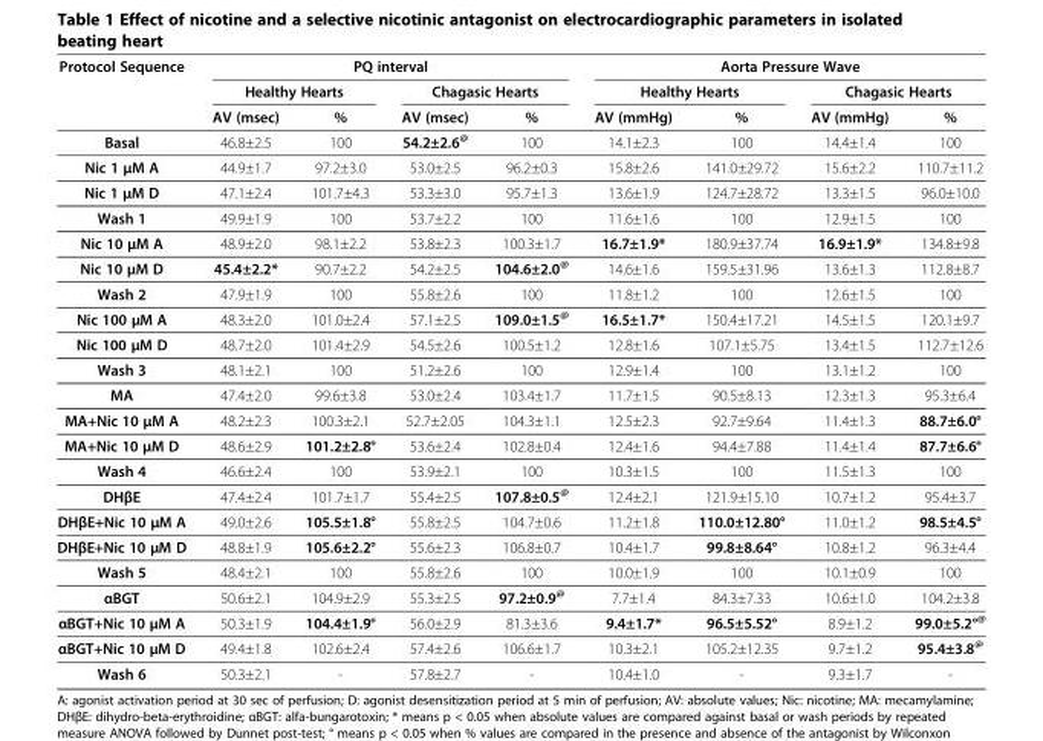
<table><thead><tr><td rowspan="3">Protocol Sequence</td><td colspan="4">PQ interval</td><td colspan="4">Aorta Pressure Wave</td></tr><tr><td colspan="2">Healthy Hearts</td><td colspan="2">Chagasic Hearts</td><td colspan="2">Healthy Hearts</td><td colspan="2">Chagasic Hearts</td></tr><tr><td>AV (msec)</td><td>%</td><td>AV (msec)</td><td>%</td><td>AV (mmHg)</td><td>%</td><td>AV (mmHg)</td><td>%</td></tr></thead><tbody><tr><td>Basal</td><td>46.8±2.5</td><td>100</td><td>54.2±2.6<sup>@</sup></td><td>100</td><td>14.1±2.3</td><td>100</td><td>14.4±1.4</td><td>100</td></tr><tr><td>Nic 1 μM A</td><td>44.9±1.7</td><td>97.2±3.0</td><td>53.0±2.5</td><td>96.2±0.3</td><td>15.8±2.6</td><td>141.0±29.72</td><td>15.6±2.2</td><td>110.7±11.2</td></tr><tr><td>Nic 1 μM D</td><td>47.1±2.4</td><td>101.7±4.3</td><td>53.3±3.0</td><td>95.7±1.3</td><td>13.6±1.9</td><td>124.7±28.72</td><td>13.3±1.5</td><td>96.0±10.0</td></tr><tr><td>Wash 1</td><td>49.9±1.9</td><td>100</td><td>53.7±2.2</td><td>100</td><td>11.6±1.6</td><td>100</td><td>12.9±1.5</td><td>100</td></tr><tr><td>Nic 10 μM A</td><td>48.9±2.0</td><td>98.1±2.2</td><td>53.8±2.3</td><td>100.3±1.7</td><td>16.7±1.9*</td><td>180.9±37.74</td><td>16.9±1.9*</td><td>134.8±9.8</td></tr><tr><td>Nic 10 μM D</td><td>45.4±2.2*</td><td>90.7±2.2</td><td>54.2±2.5</td><td>104.6±2.0<sup>@</sup></td><td>14.6±1.6</td><td>159.5±31.96</td><td>13.6±1.3</td><td>112.8±8.7</td></tr><tr><td>Wash 2</td><td>47.9±1.9</td><td>100</td><td>55.8±2.6</td><td>100</td><td>11.8±1.2</td><td>100</td><td>12.6±1.5</td><td>100</td></tr><tr><td>Nic 100 μM A</td><td>48.3±2.0</td><td>101.0±2.4</td><td>57.1±2.5</td><td>109.0±1.5<sup>@</sup></td><td>16.5±1.7*</td><td>150.4±17.21</td><td>14.5±1.5</td><td>120.1±9.7</td></tr><tr><td>Nic 100 μM D</td><td>48.7±2.0</td><td>101.4±2.9</td><td>54.5±2.6</td><td>100.5±1.2</td><td>12.8±1.6</td><td>107.1±5.75</td><td>13.4±1.5</td><td>112.7±12.6</td></tr><tr><td>Wash 3</td><td>48.1±2.1</td><td>100</td><td>51.2±2.6</td><td>100</td><td>12.9±1.4</td><td>100</td><td>13.1±1.2</td><td>100</td></tr><tr><td>MA</td><td>47.4±2.0</td><td>99.6±3.8</td><td>53.0±2.4</td><td>103.4±1.7</td><td>11.7±1.5</td><td>90.5±8.13</td><td>12.3±1.3</td><td>95.3±6.4</td></tr><tr><td>MA+Nic 10 μM A</td><td>48.2±2.3</td><td>100.3±2.1</td><td>52.7±2.05</td><td>104.3±1.1</td><td>12.5±2.3</td><td>92.7±9.64</td><td>11.4±1.3</td><td>88.7±6.0°</td></tr><tr><td>MA+Nic 10 μM D</td><td>48.6±2.9</td><td>101.2±2.8°</td><td>53.6±2.4</td><td>102.8±0.4</td><td>12.4±1.6</td><td>94.4±7.88</td><td>11.4±1.4</td><td>87.7±6.6°</td></tr><tr><td>Wash 4</td><td>46.6±2.4</td><td>100</td><td>53.9±2.1</td><td>100</td><td>10.3±1.5</td><td>100</td><td>11.5±1.3</td><td>100</td></tr><tr><td>DHβE</td><td>47.4±2.4</td><td>101.7±1.7</td><td>55.4±2.5</td><td>107.8±0.5<sup>@</sup></td><td>12.4±2.1</td><td>121.9±15.10</td><td>10.7±1.2</td><td>95.4±3.7</td></tr><tr><td>DHβE+Nic 10 μM A</td><td>49.0±2.6</td><td>105.5±1.8°</td><td>55.8±2.5</td><td>104.7±0.6</td><td>11.2±1.8</td><td>110.0±12.80°</td><td>11.0±1.2</td><td>98.5±4.5°</td></tr><tr><td>DHβE+Nic 10 μM D</td><td>48.8±1.9</td><td>105.6±2.2°</td><td>55.6±2.3</td><td>106.8±0.7</td><td>10.4±1.7</td><td>99.8±8.64°</td><td>10.8±1.2</td><td>96.3±4.4</td></tr><tr><td>Wash 5</td><td>48.4±2.1</td><td>100</td><td>55.8±2.6</td><td>100</td><td>10.0±1.9</td><td>100</td><td>10.1±0.9</td><td>100</td></tr><tr><td>αBGT</td><td>50.6±2.1</td><td>104.9±2.9</td><td>55.3±2.5</td><td>97.2±0.9<sup>@</sup></td><td>7.7±1.4</td><td>84.3±7.33</td><td>10.6±1.0</td><td>104.2±3.8</td></tr><tr><td>αBGT+Nic 10 μM A</td><td>50.3±1.9</td><td>104.4±1.9°</td><td>56.0±2.9</td><td>81.3±3.6</td><td>9.4±1.7*</td><td>96.5±5.52°</td><td>8.9±1.2</td><td>99.0±5.2°<sup>@</sup></td></tr><tr><td>αBGT+Nic 10 μM D</td><td>49.4±1.8</td><td>102.6±2.4</td><td>57.4±2.6</td><td>106.6±1.7</td><td>10.3±2.1</td><td>105.2±12.35</td><td>9.7±1.2</td><td>95.4±3.8<sup>@</sup></td></tr><tr><td>Wash 6</td><td>50.3±2.1</td><td>-</td><td>57.8±2.7</td><td>-</td><td>10.4±1.0</td><td>-</td><td>9.3±1.7</td><td>-</td></tr></tbody></table>